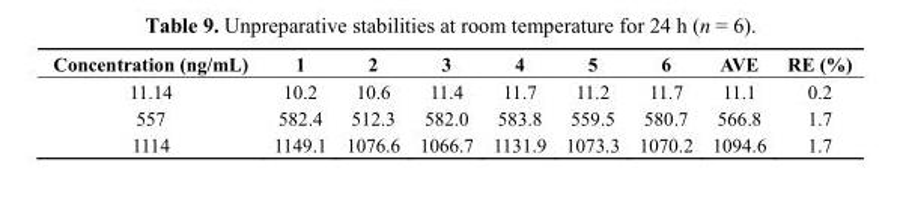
<table><thead><tr><td>Concentration (ng/mL)</td><td>1</td><td>2</td><td>3</td><td>4</td><td>5</td><td>6</td><td>AVE</td><td>RE (%)</td></tr></thead><tbody><tr><td>11.14</td><td>10.2</td><td>10.6</td><td>11.4</td><td>11.7</td><td>11.2</td><td>11.7</td><td>11.1</td><td>0.2</td></tr><tr><td>557</td><td>582.4</td><td>512.3</td><td>582.0</td><td>583.8</td><td>559.5</td><td>580.7</td><td>566.8</td><td>1.7</td></tr><tr><td>1114</td><td>1149.1</td><td>1076.6</td><td>1066.7</td><td>1131.9</td><td>1073.3</td><td>1070.2</td><td>1094.6</td><td>1.7</td></tr></tbody></table>